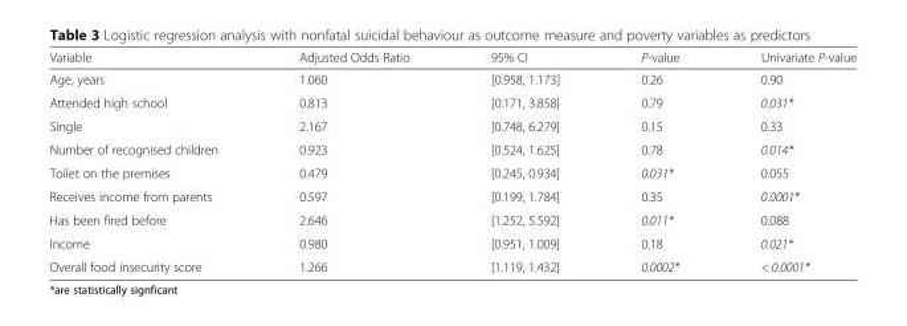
<table><thead><tr><td>Variable</td><td>Adjusted Odds Ratio</td><td>95% CI</td><td>P-value</td><td>Univariate P-value</td></tr></thead><tbody><tr><td>Age, years</td><td>1.060</td><td>[0.958, 1.173]</td><td>0.26</td><td>0.90</td></tr><tr><td>Attended high school</td><td>0.813</td><td>[0.171, 3.858]</td><td>0.79</td><td>0.031*</td></tr><tr><td>Single</td><td>2.167</td><td>[0.748, 6.279]</td><td>0.15</td><td>0.33</td></tr><tr><td>Number of recognised children</td><td>0.923</td><td>[0.524, 1.625]</td><td>0.78</td><td>0.014*</td></tr><tr><td>Toilet on the premises</td><td>0.479</td><td>[0.245, 0.934]</td><td>0.031*</td><td>0.055</td></tr><tr><td>Receives income from parents</td><td>0.597</td><td>[0.199, 1.784]</td><td>0.35</td><td>0.0001*</td></tr><tr><td>Has been fired before</td><td>2.646</td><td>[1.252, 5.592]</td><td>0.011*</td><td>0.088</td></tr><tr><td>Income</td><td>0.980</td><td>[0.951, 1.009]</td><td>0.18</td><td>0.021*</td></tr><tr><td>Overall food insecurity score</td><td>1.266</td><td>[1.119, 1.432]</td><td>0.0002*</td><td>&lt; 0.0001*</td></tr></tbody></table>